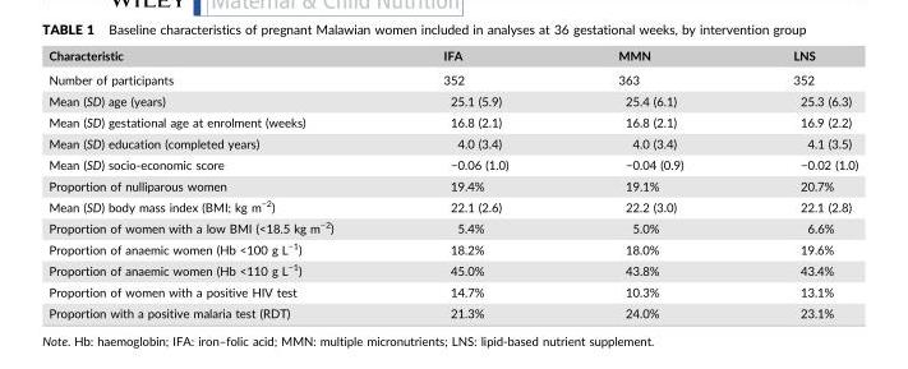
<table><thead><tr><td>Characteristic</td><td>IFA</td><td>MMN</td><td>LNS</td></tr></thead><tbody><tr><td>Number of participants</td><td>352</td><td>363</td><td>352</td></tr><tr><td>Mean (SD) age (years)</td><td>25.1 (5.9)</td><td>25.4 (6.1)</td><td>25.3 (6.3)</td></tr><tr><td>Mean (SD) gestational age at enrolment (weeks)</td><td>16.8 (2.1)</td><td>16.8 (2.1)</td><td>16.9 (2.2)</td></tr><tr><td>Mean (SD) education (completed years)</td><td>4.0 (3.4)</td><td>4.0 (3.4)</td><td>4.1 (3.5)</td></tr><tr><td>Mean (SD) socio‐economic score</td><td>−0.06 (1.0)</td><td>−0.04 (0.9)</td><td>−0.02 (1.0)</td></tr><tr><td>Proportion of nulliparous women</td><td>19.4%</td><td>19.1%</td><td>20.7%</td></tr><tr><td>Mean (SD) body mass index (BMI; kg m<sup>−2</sup>)</td><td>22.1 (2.6)</td><td>22.2 (3.0)</td><td>22.1 (2.8)</td></tr><tr><td>Proportion of women with a low BMI (&lt;18.5 kg m<sup>−2</sup>)</td><td>5.4%</td><td>5.0%</td><td>6.6%</td></tr><tr><td>Proportion of anaemic women (Hb &lt;100 g L<sup>−1</sup>)</td><td>18.2%</td><td>18.0%</td><td>19.6%</td></tr><tr><td>Proportion of anaemic women (Hb &lt;110 g L<sup>−1</sup>)</td><td>45.0%</td><td>43.8%</td><td>43.4%</td></tr><tr><td>Proportion of women with a positive HIV test</td><td>14.7%</td><td>10.3%</td><td>13.1%</td></tr><tr><td>Proportion with a positive malaria test (RDT)</td><td>21.3%</td><td>24.0%</td><td>23.1%</td></tr></tbody></table>